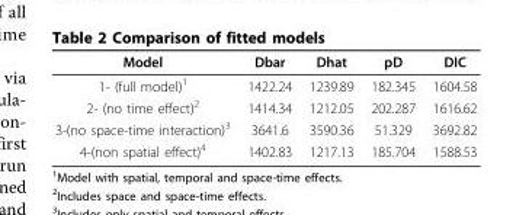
<table><thead><tr><td>Model</td><td>Dbar</td><td>Dhat</td><td>pD</td><td>DIC</td></tr></thead><tbody><tr><td>1- (full model)<sup>1</sup></td><td>1422.24</td><td>1239.89</td><td>182.345</td><td>1604.58</td></tr><tr><td>2- (no time effect)<sup>2</sup></td><td>1414.34</td><td>1212.05</td><td>202.287</td><td>1616.62</td></tr><tr><td>3-(no space-time interaction)<sup>3</sup></td><td>3641.6</td><td>3590.36</td><td>51.329</td><td>3692.82</td></tr><tr><td>4-(non spatial effect)<sup>4</sup></td><td>1402.83</td><td>1217.13</td><td>185.704</td><td>1588.53</td></tr></tbody></table>